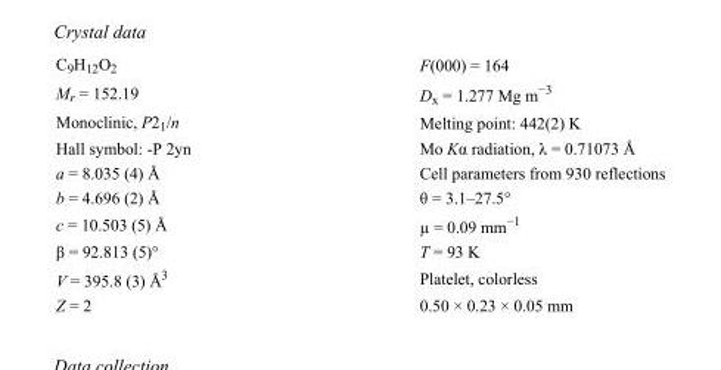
<table><tbody><tr><td>C<sub>9</sub>H<sub>12</sub>O<sub>2</sub></td><td>F(000) = 164</td></tr><tr><td>M<sub>r</sub> = 152.19</td><td>D<sub>x</sub> = 1.277 Mg m<sup>−3</sup></td></tr><tr><td>Monoclinic, P2<sub>1</sub>/n</td><td>Melting point: 442(2) K</td></tr><tr><td>Hall symbol: -P 2yn</td><td>Mo Kα radiation, λ = 0.71073 Å</td></tr><tr><td>a = 8.035 (4) Å</td><td>Cell parameters from 930 reflections</td></tr><tr><td>b = 4.696 (2) Å</td><td>θ = 3.1–27.5°</td></tr><tr><td>c = 10.503 (5) Å</td><td>µ = 0.09 mm<sup>−1</sup></td></tr><tr><td>β = 92.813 (5)°</td><td>T = 93 K</td></tr><tr><td>V = 395.8 (3) Å<sup>3</sup></td><td>Platelet, colorless</td></tr><tr><td>Z = 2</td><td>0.50 × 0.23 × 0.05 mm</td></tr></tbody></table>